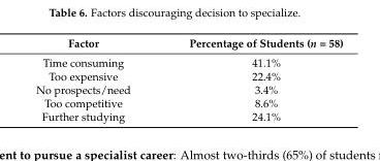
<table><thead><tr><td>Factor</td><td>Percentage of Students (n = 58)</td></tr></thead><tbody><tr><td>Time consuming</td><td>41.1%</td></tr><tr><td>Too expensive</td><td>22.4%</td></tr><tr><td>No prospects/need</td><td>3.4%</td></tr><tr><td>Too competitive</td><td>8.6%</td></tr><tr><td>Further studying</td><td>24.1%</td></tr></tbody></table>